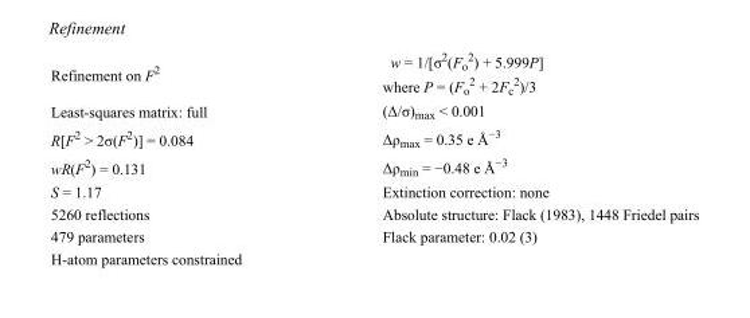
<table><tbody><tr><td>Refinement on F<sup>2</sup></td><td>w = 1/[σ<sup>2</sup>(F<sub>o</sub> <sup>2</sup>) + 5.999P] where P = (F<sub>o</sub> <sup>2</sup> + 2F<sub>c</sub> <sup>2</sup>)/3</td></tr><tr><td>Least-squares matrix: full</td><td>(Δ/σ)<sub>max</sub> &lt; 0.001</td></tr><tr><td>R[F<sup>2</sup> &gt; 2σ(F<sup>2</sup>)] = 0.084</td><td>Δρ<sub>max</sub> = 0.35 e Å<sup>−3</sup></td></tr><tr><td>wR(F<sup>2</sup>) = 0.131</td><td>Δρ<sub>min</sub> = −0.48 e Å<sup>−3</sup></td></tr><tr><td>S = 1.17</td><td>Extinction correction: none</td></tr><tr><td>5260 reflections</td><td>Absolute structure: Flack (1983), 1448 Friedel pairs</td></tr><tr><td>479 parameters</td><td>Flack parameter: 0.02 (3)</td></tr><tr><td>H-atom parameters constrained</td><td></td></tr></tbody></table>